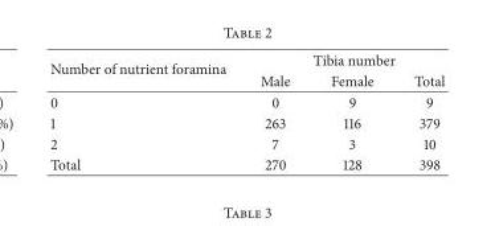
<table><thead><tr><td rowspan="2">Number of nutrient foramina</td><td colspan="3">Tibia number</td></tr><tr><td>Male</td><td>Female</td><td>Total</td></tr></thead><tbody><tr><td>0</td><td>0</td><td>9</td><td>9</td></tr><tr><td>1</td><td>263</td><td>116</td><td>379</td></tr><tr><td>2</td><td>7</td><td>3</td><td>10</td></tr><tr><td>Total</td><td>270</td><td>128</td><td>398</td></tr></tbody></table>